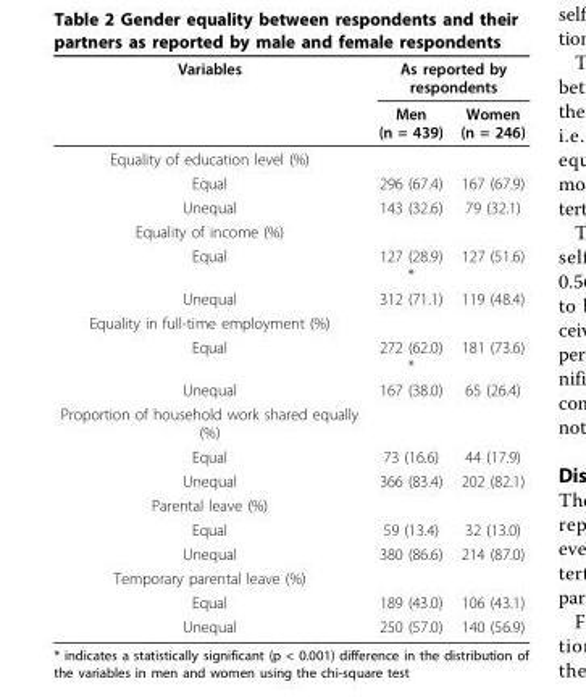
<table><thead><tr><td rowspan="2">Variables</td><td colspan="2">As reported by respondents</td></tr><tr><td>Men (n = 439)</td><td>Women (n = 246)</td></tr></thead><tbody><tr><td colspan="3">Equality of education level (%)</td></tr><tr><td>Equal</td><td>296 (67.4)</td><td>167 (67.9)</td></tr><tr><td>Unequal</td><td>143 (32.6)</td><td>79 (32.1)</td></tr><tr><td colspan="3">Equality of income (%)</td></tr><tr><td>Equal</td><td>127 (28.9) *</td><td>127 (51.6)</td></tr><tr><td>Unequal</td><td>312 (71.1)</td><td>119 (48.4)</td></tr><tr><td colspan="3">Equality in full-time employment (%)</td></tr><tr><td>Equal</td><td>272 (62.0) *</td><td>181 (73.6)</td></tr><tr><td>Unequal</td><td>167 (38.0)</td><td>65 (26.4)</td></tr><tr><td colspan="3">Proportion of household work shared equally (%)</td></tr><tr><td>Equal</td><td>73 (16.6)</td><td>44 (17.9)</td></tr><tr><td>Unequal</td><td>366 (83.4)</td><td>202 (82.1)</td></tr><tr><td colspan="3">Parental leave (%)</td></tr><tr><td>Equal</td><td>59 (13.4)</td><td>32 (13.0)</td></tr><tr><td>Unequal</td><td>380 (86.6)</td><td>214 (87.0)</td></tr><tr><td colspan="3">Temporary parental leave (%)</td></tr><tr><td>Equal</td><td>189 (43.0)</td><td>106 (43.1)</td></tr><tr><td>Unequal</td><td>250 (57.0)</td><td>140 (56.9)</td></tr></tbody></table>